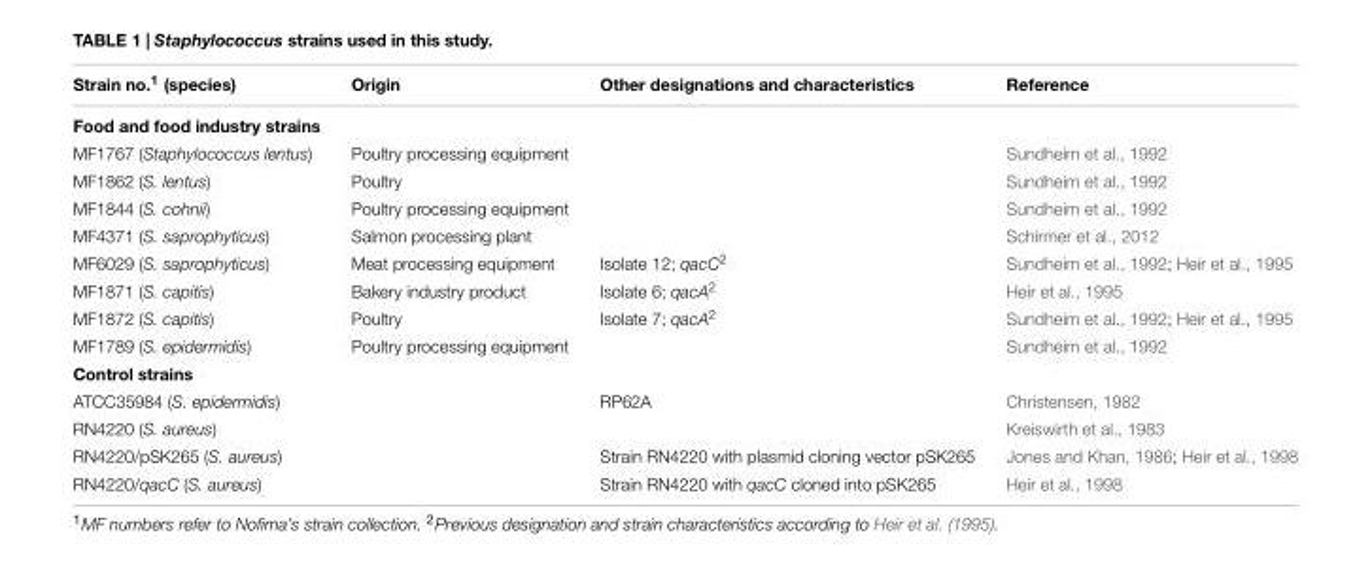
<table><thead><tr><td>Strain no.<sup>1</sup> (species)</td><td>Origin</td><td>Other designations and characteristics</td><td>Reference</td></tr></thead><tbody><tr><td colspan="4">Food and food industry strains</td></tr><tr><td>MF1767 (Staphylococcus lentus)</td><td>Poultry processing equipment</td><td></td><td>Sundheim et al., 1992</td></tr><tr><td>MF1862 (S. lentus)</td><td>Poultry</td><td></td><td>Sundheim et al., 1992</td></tr><tr><td>MF1844 (S. cohnii)</td><td>Poultry processing equipment</td><td></td><td>Sundheim et al., 1992</td></tr><tr><td>MF4371 (S. saprophyticus)</td><td>Salmon processing plant</td><td></td><td>Schirmer et al., 2012</td></tr><tr><td>MF6029 (S. saprophyticus)</td><td>Meat processing equipment</td><td>Isolate 12; qacC<sup>2</sup></td><td>Sundheim et al., 1992; Heir et al., 1995</td></tr><tr><td>MF1871 (S. capitis)</td><td>Bakery industry product</td><td>Isolate 6; qacA<sup>2</sup></td><td>Heir et al., 1995</td></tr><tr><td>MF1872 (S. capitis)</td><td>Poultry</td><td>Isolate 7; qacA<sup>2</sup></td><td>Sundheim et al., 1992; Heir et al., 1995</td></tr><tr><td>MF1789 (S. epidermidis)</td><td>Poultry processing equipment</td><td></td><td>Sundheim et al., 1992</td></tr><tr><td colspan="4">Control strains</td></tr><tr><td>ATCC35984 (S. epidermidis)</td><td></td><td>RP62A</td><td>Christensen, 1982</td></tr><tr><td>RN4220 (S. aureus)</td><td></td><td></td><td>Kreiswirth et al., 1983</td></tr><tr><td>RN4220/pSK265 (S. aureus)</td><td></td><td>Strain RN4220 with plasmid cloning vector pSK265</td><td>Jones and Khan, 1986; Heir et al., 1998</td></tr><tr><td>RN4220/qacC (S. aureus)</td><td></td><td>Strain RN4220 with qacC cloned into pSK265</td><td>Heir et al., 1998</td></tr></tbody></table>